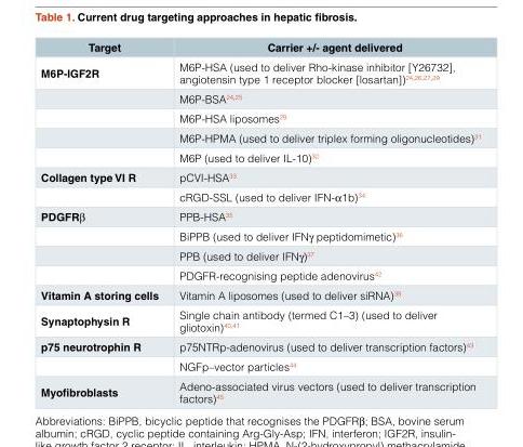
<table><thead><tr><td>Target</td><td>Carrier +/- agent delivered</td></tr></thead><tbody><tr><td rowspan="5">M6P-IGF2R</td><td>M6P-HSA (used to deliver Rho-kinase inhibitor [Y26732], angiotensin type 1 receptor blocker [losartan])<sup>24,26,27,29</sup></td></tr><tr><td>M6P-BSA<sup>24,25</sup></td></tr><tr><td>M6P-HSA liposomes<sup>28</sup></td></tr><tr><td>M6P-HPMA (used to deliver triplex forming oligonucleotides)<sup>31</sup></td></tr><tr><td>M6P (used to deliver IL-10)<sup>32</sup></td></tr><tr><td rowspan="2">Collagen type VI R</td><td>pCVI-HSA<sup>33</sup></td></tr><tr><td>cRGD-SSL (used to deliver IFN-α1b)<sup>34</sup></td></tr><tr><td rowspan="4">PDGFRβ</td><td>PPB-HSA<sup>35</sup></td></tr><tr><td>BiPPB (used to deliver IFNγ peptidomimetic)<sup>36</sup></td></tr><tr><td>PPB (used to deliver IFNγ)<sup>37</sup></td></tr><tr><td>PDGFR-recognising peptide adenovirus<sup>42</sup></td></tr><tr><td>Vitamin A storing cells</td><td>Vitamin A liposomes (used to deliver siRNA)<sup>38</sup></td></tr><tr><td>Synaptophysin R</td><td>Single chain antibody (termed C1–3) (used to deliver gliotoxin)<sup>40,41</sup></td></tr><tr><td rowspan="2">p75 neurotrophin R</td><td>p75NTRp-adenovirus (used to deliver transcription factors)<sup>43</sup></td></tr><tr><td>NGFp–vector particles<sup>44</sup></td></tr><tr><td>Myofibroblasts</td><td>Adeno-associated virus vectors (used to deliver transcription factors)<sup>45</sup></td></tr></tbody></table>